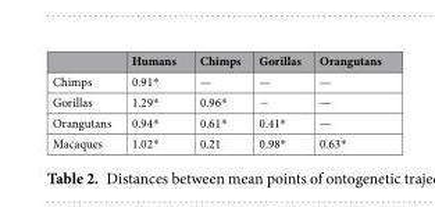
<table><thead><tr><td></td><td>Humans</td><td>Chimps</td><td>Gorillas</td><td>Orangutans</td></tr></thead><tbody><tr><td>Chimps</td><td>0.91*</td><td>—</td><td>—</td><td>—</td></tr><tr><td>Gorillas</td><td>1.29*</td><td>0.96*</td><td>−</td><td>—</td></tr><tr><td>Orangutans</td><td>0.94*</td><td>0.61*</td><td>0.41*</td><td>—</td></tr><tr><td>Macaques</td><td>1.02*</td><td>0.21</td><td>0.98*</td><td>0.63*</td></tr></tbody></table>